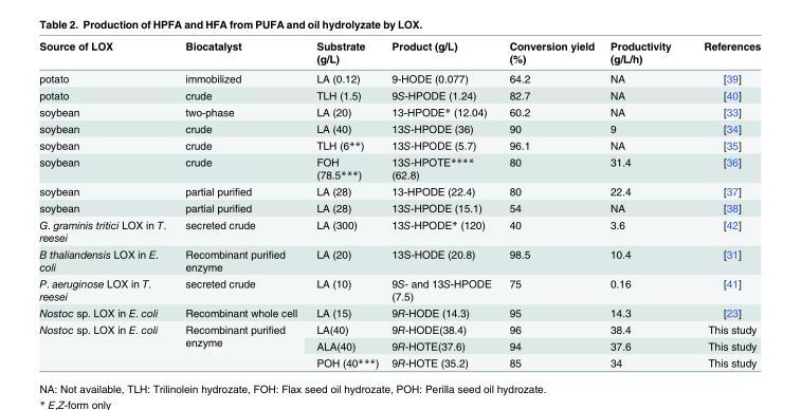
<table><thead><tr><td>Source of LOX</td><td>Biocatalyst</td><td>Substrate (g/L)</td><td>Product (g/L)</td><td>Conversion yield (%)</td><td>Productivity (g/L/h)</td><td>References</td></tr></thead><tbody><tr><td>potato</td><td>immobilized</td><td>LA (0.12)</td><td>9-HODE (0.077)</td><td>64.2</td><td>NA</td><td>[39]</td></tr><tr><td>potato</td><td>crude</td><td>TLH (1.5)</td><td>9S-HPODE (1.24)</td><td>82.7</td><td>NA</td><td>[40]</td></tr><tr><td>soybean</td><td>two-phase</td><td>LA (20)</td><td>13-HPODE* (12.04)</td><td>60.2</td><td>NA</td><td>[33]</td></tr><tr><td>soybean</td><td>crude</td><td>LA (40)</td><td>13S-HPODE (36)</td><td>90</td><td>9</td><td>[34]</td></tr><tr><td>soybean</td><td>crude</td><td>TLH (6**)</td><td>13S-HPODE (5.7)</td><td>96.1</td><td>NA</td><td>[35]</td></tr><tr><td>soybean</td><td>crude</td><td>FOH (78.5***)</td><td>13S-HPOTE**** (62.8)</td><td>80</td><td>31.4</td><td>[36]</td></tr><tr><td>soybean</td><td>partial purified</td><td>LA (28)</td><td>13-HPODE (22.4)</td><td>80</td><td>22.4</td><td>[37]</td></tr><tr><td>soybean</td><td>partial purified</td><td>LA (28)</td><td>13S-HPODE (15.1)</td><td>54</td><td>NA</td><td>[38]</td></tr><tr><td>G. graminis tritici LOX in T. reesei</td><td>secreted crude</td><td>LA (300)</td><td>13S-HPODE* (120)</td><td>40</td><td>3.6</td><td>[42]</td></tr><tr><td>B thaliandensis LOX in E. coli</td><td>Recombinant purified enzyme</td><td>LA (20)</td><td>13S-HODE (20.8)</td><td>98.5</td><td>10.4</td><td>[31]</td></tr><tr><td>P. aeruginose LOX in T. reesei</td><td>secreted crude</td><td>LA (10)</td><td>9S- and 13S-HPODE (7.5)</td><td>75</td><td>0.16</td><td>[41]</td></tr><tr><td>Nostoc sp. LOX in E. coli</td><td>Recombinant whole cell</td><td>LA (15)</td><td>9R-HODE (14.3)</td><td>95</td><td>14.3</td><td>[23]</td></tr><tr><td rowspan="3">Nostoc sp. LOX in E. coli</td><td rowspan="3">Recombinant purified enzyme</td><td>LA(40)</td><td>9R-HODE(38.4)</td><td>96</td><td>38.4</td><td>This study</td></tr><tr><td>ALA(40)</td><td>9R-HOTE(37.6)</td><td>94</td><td>37.6</td><td>This study</td></tr><tr><td>POH (40***)</td><td>9R-HOTE (35.2)</td><td>85</td><td>34</td><td>This study</td></tr></tbody></table>